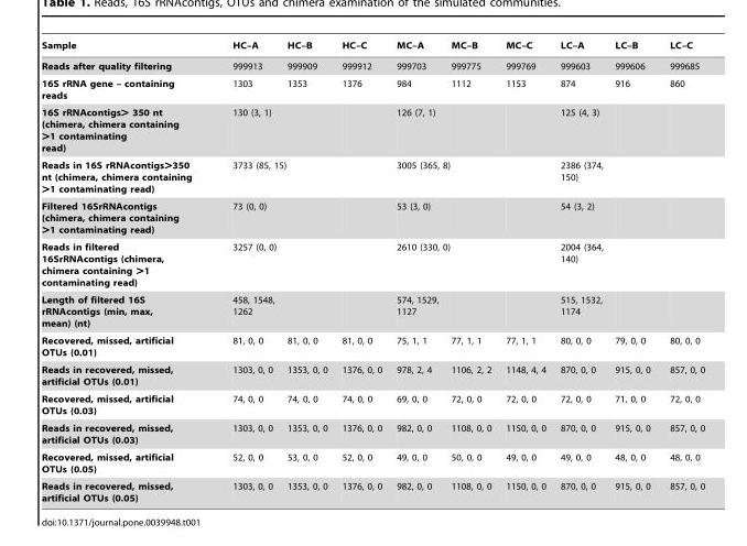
<table><thead><tr><td>Sample</td><td>HC–A</td><td>HC–B</td><td>HC–C</td><td>MC–A</td><td>MC–B</td><td>MC–C</td><td>LC–A</td><td>LC–B</td><td>LC–C</td></tr></thead><tbody><tr><td>Reads after quality filtering</td><td>999913</td><td>999909</td><td>999912</td><td>999703</td><td>999775</td><td>999769</td><td>999603</td><td>999606</td><td>999685</td></tr><tr><td>16S rRNA gene – containing reads</td><td>1303</td><td>1353</td><td>1376</td><td>984</td><td>1112</td><td>1153</td><td>874</td><td>916</td><td>860</td></tr><tr><td>16S rRNAcontigs&gt; 350 nt (chimera, chimera containing &gt;1 contaminating read)</td><td>130 (3, 1)</td><td></td><td></td><td>126 (7, 1)</td><td></td><td></td><td>125 (4, 3)</td><td></td><td></td></tr><tr><td>Reads in 16S rRNAcontigs&gt;350 nt (chimera, chimera containing &gt;1 contaminating read)</td><td>3733 (85, 15)</td><td></td><td></td><td>3005 (365, 8)</td><td></td><td></td><td>2386 (374, 150)</td><td></td><td></td></tr><tr><td>Filtered 16SrRNAcontigs (chimera, chimera containing &gt;1 contaminating read)</td><td>73 (0, 0)</td><td></td><td></td><td>53 (3, 0)</td><td></td><td></td><td>54 (3, 2)</td><td></td><td></td></tr><tr><td>Reads in filtered 16SrRNAcontigs (chimera, chimera containing &gt;1 contaminating read)</td><td>3257 (0, 0)</td><td></td><td></td><td>2610 (330, 0)</td><td></td><td></td><td>2004 (364, 140)</td><td></td><td></td></tr><tr><td>Length of filtered 16S rRNAcontigs (min, max, mean) (nt)</td><td>458, 1548, 1262</td><td></td><td></td><td>574, 1529, 1127</td><td></td><td></td><td>515, 1532, 1174</td><td></td><td></td></tr><tr><td>Recovered, missed, artificial OTUs (0.01)</td><td>81, 0, 0</td><td>81, 0, 0</td><td>81, 0, 0</td><td>75, 1, 1</td><td>77, 1, 1</td><td>77, 1, 1</td><td>80, 0, 0</td><td>79, 0, 0</td><td>80, 0, 0</td></tr><tr><td>Reads in recovered, missed, artificial OTUs (0.01)</td><td>1303, 0, 0</td><td>1353, 0, 0</td><td>1376, 0, 0</td><td>978, 2, 4</td><td>1106, 2, 2</td><td>1148, 4, 4</td><td>870, 0, 0</td><td>915, 0, 0</td><td>857, 0, 0</td></tr><tr><td>Recovered, missed, artificial OTUs (0.03)</td><td>74, 0, 0</td><td>74, 0, 0</td><td>74, 0, 0</td><td>69, 0, 0</td><td>72, 0, 0</td><td>72, 0, 0</td><td>72, 0, 0</td><td>71, 0, 0</td><td>72, 0, 0</td></tr><tr><td>Reads in recovered, missed, artificial OTUs (0.03)</td><td>1303, 0, 0</td><td>1353, 0, 0</td><td>1376, 0, 0</td><td>982, 0, 0</td><td>1108, 0, 0</td><td>1150, 0, 0</td><td>870, 0, 0</td><td>915, 0, 0</td><td>857, 0, 0</td></tr><tr><td>Recovered, missed, artificial OTUs (0.05)</td><td>52, 0, 0</td><td>53, 0, 0</td><td>52, 0, 0</td><td>49, 0, 0</td><td>50, 0, 0</td><td>49, 0, 0</td><td>49, 0, 0</td><td>48, 0, 0</td><td>48, 0, 0</td></tr><tr><td>Reads in recovered, missed, artificial OTUs (0.05)</td><td>1303, 0, 0</td><td>1353, 0, 0</td><td>1376, 0, 0</td><td>982, 0, 0</td><td>1108, 0, 0</td><td>1150, 0, 0</td><td>870, 0, 0</td><td>915, 0, 0</td><td>857, 0, 0</td></tr></tbody></table>